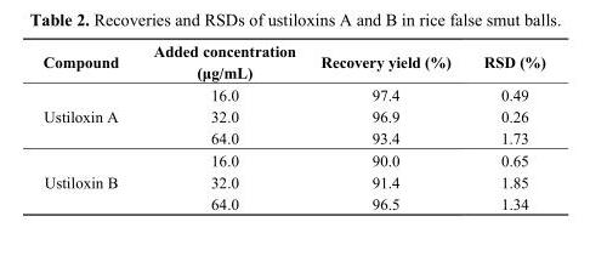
<table><thead><tr><td>Compound</td><td>Added concentration (μg/mL)</td><td>Recovery yield (%)</td><td>RSD (%)</td></tr></thead><tbody><tr><td rowspan="3">Ustiloxin A</td><td>16.0</td><td>97.4</td><td>0.49</td></tr><tr><td>32.0</td><td>96.9</td><td>0.26</td></tr><tr><td>64.0</td><td>93.4</td><td>1.73</td></tr><tr><td rowspan="3">Ustiloxin B</td><td>16.0</td><td>90.0</td><td>0.65</td></tr><tr><td>32.0</td><td>91.4</td><td>1.85</td></tr><tr><td>64.0</td><td>96.5</td><td>1.34</td></tr></tbody></table>